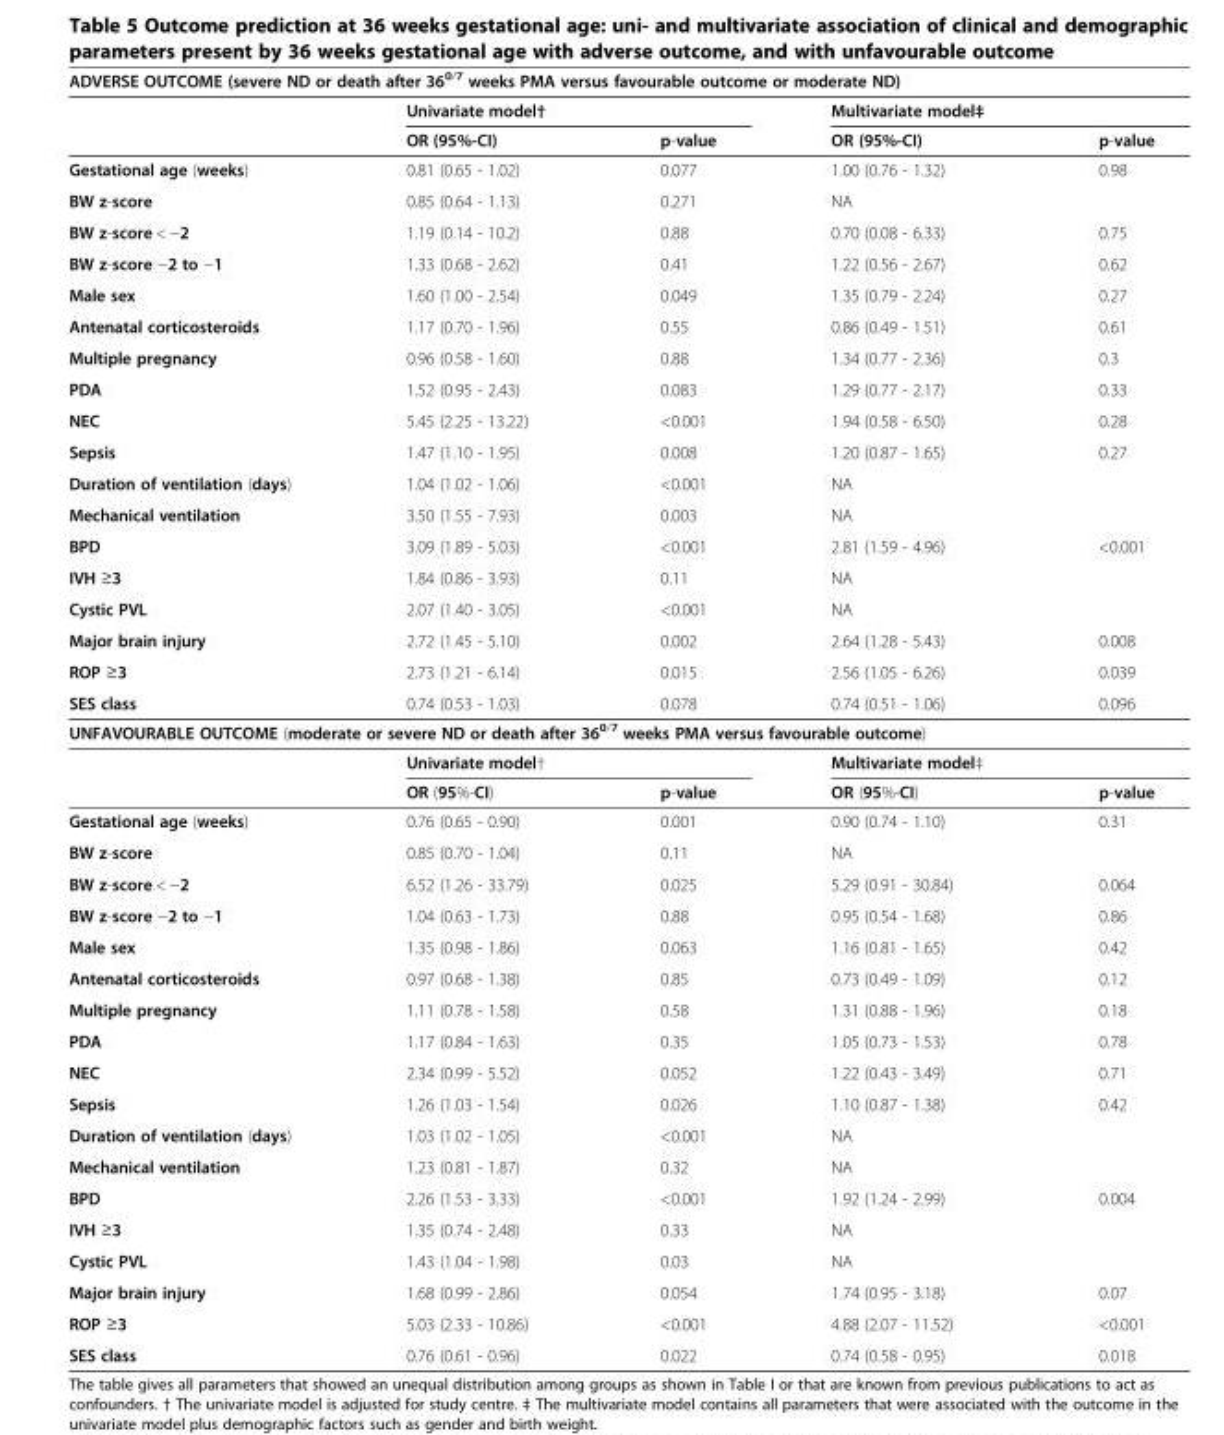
<table><thead><tr><td colspan="5">ADVERSE OUTCOME (severe ND or death after 36<sup>0/7</sup> weeks PMA versus favourable outcome or moderate ND)</td></tr><tr><td rowspan="2"></td><td rowspan="2">Univariate model† OR (95%-CI)</td><td rowspan="2">p-value</td><td rowspan="2">Multivariate model‡ OR (95%-CI)</td><td rowspan="2">p-value</td></tr><tr></tr></thead><tbody><tr><td>Gestational age (weeks)</td><td>0.81 (0.65 - 1.02)</td><td>0.077</td><td>1.00 (0.76 - 1.32)</td><td>0.98</td></tr><tr><td>BW z-score</td><td>0.85 (0.64 - 1.13)</td><td>0.271</td><td>NA</td><td></td></tr><tr><td>BW z-score &lt; −2</td><td>1.19 (0.14 - 10.2)</td><td>0.88</td><td>0.70 (0.08 - 6.33)</td><td>0.75</td></tr><tr><td>BW z-score −2 to −1</td><td>1.33 (0.68 - 2.62)</td><td>0.41</td><td>1.22 (0.56 - 2.67)</td><td>0.62</td></tr><tr><td>Male sex</td><td>1.60 (1.00 - 2.54)</td><td>0.049</td><td>1.35 (0.79 - 2.24)</td><td>0.27</td></tr><tr><td>Antenatal corticosteroids</td><td>1.17 (0.70 - 1.96)</td><td>0.55</td><td>0.86 (0.49 - 1.51)</td><td>0.61</td></tr><tr><td>Multiple pregnancy</td><td>0.96 (0.58 - 1.60)</td><td>0.88</td><td>1.34 (0.77 - 2.36)</td><td>0.3</td></tr><tr><td>PDA</td><td>1.52 (0.95 - 2.43)</td><td>0.083</td><td>1.29 (0.77 - 2.17)</td><td>0.33</td></tr><tr><td>NEC</td><td>5.45 (2.25 - 13.22)</td><td>&lt;0.001</td><td>1.94 (0.58 - 6.50)</td><td>0.28</td></tr><tr><td>Sepsis</td><td>1.47 (1.10 - 1.95)</td><td>0.008</td><td>1.20 (0.87 - 1.65)</td><td>0.27</td></tr><tr><td>Duration of ventilation (days)</td><td>1.04 (1.02 - 1.06)</td><td>&lt;0.001</td><td>NA</td><td></td></tr><tr><td>Mechanical ventilation</td><td>3.50 (1.55 - 7.93)</td><td>0.003</td><td>NA</td><td></td></tr><tr><td>BPD</td><td>3.09 (1.89 - 5.03)</td><td>&lt;0.001</td><td>2.81 (1.59 - 4.96)</td><td>&lt;0.001</td></tr><tr><td>IVH ≥3</td><td>1.84 (0.86 - 3.93)</td><td>0.11</td><td>NA</td><td></td></tr><tr><td>Cystic PVL</td><td>2.07 (1.40 - 3.05)</td><td>&lt;0.001</td><td>NA</td><td></td></tr><tr><td>Major brain injury</td><td>2.72 (1.45 - 5.10)</td><td>0.002</td><td>2.64 (1.28 - 5.43)</td><td>0.008</td></tr><tr><td>ROP ≥3</td><td>2.73 (1.21 - 6.14)</td><td>0.015</td><td>2.56 (1.05 - 6.26)</td><td>0.039</td></tr><tr><td>SES class</td><td>0.74 (0.53 - 1.03)</td><td>0.078</td><td>0.74 (0.51 - 1.06)</td><td>0.096</td></tr><tr><td colspan="5">UNFAVOURABLE OUTCOME (moderate or severe ND or death after 36<sup>0/7</sup> weeks PMA versus favourable outcome)</td></tr><tr><td></td><td>Univariate model†</td><td></td><td>Multivariate model‡</td><td></td></tr><tr><td></td><td>OR (95%-CI)</td><td>p-value</td><td>OR (95%-CI)</td><td>p-value</td></tr><tr><td>Gestational age (weeks)</td><td>0.76 (0.65 - 0.90)</td><td>0.001</td><td>0.90 (0.74 - 1.10)</td><td>0.31</td></tr><tr><td>BW z-score</td><td>0.85 (0.70 - 1.04)</td><td>0.11</td><td>NA</td><td></td></tr><tr><td>BW z-score &lt; −2</td><td>6.52 (1.26 - 33.79)</td><td>0.025</td><td>5.29 (0.91 - 30.84)</td><td>0.064</td></tr><tr><td>BW z-score −2 to −1</td><td>1.04 (0.63 - 1.73)</td><td>0.88</td><td>0.95 (0.54 - 1.68)</td><td>0.86</td></tr><tr><td>Male sex</td><td>1.35 (0.98 - 1.86)</td><td>0.063</td><td>1.16 (0.81 - 1.65)</td><td>0.42</td></tr><tr><td>Antenatal corticosteroids</td><td>0.97 (0.68 - 1.38)</td><td>0.85</td><td>0.73 (0.49 - 1.09)</td><td>0.12</td></tr><tr><td>Multiple pregnancy</td><td>1.11 (0.78 - 1.58)</td><td>0.58</td><td>1.31 (0.88 - 1.96)</td><td>0.18</td></tr><tr><td>PDA</td><td>1.17 (0.84 - 1.63)</td><td>0.35</td><td>1.05 (0.73 - 1.53)</td><td>0.78</td></tr><tr><td>NEC</td><td>2.34 (0.99 - 5.52)</td><td>0.052</td><td>1.22 (0.43 - 3.49)</td><td>0.71</td></tr><tr><td>Sepsis</td><td>1.26 (1.03 - 1.54)</td><td>0.026</td><td>1.10 (0.87 - 1.38)</td><td>0.42</td></tr><tr><td>Duration of ventilation (days)</td><td>1.03 (1.02 - 1.05)</td><td>&lt;0.001</td><td>NA</td><td></td></tr><tr><td>Mechanical ventilation</td><td>1.23 (0.81 - 1.87)</td><td>0.32</td><td>NA</td><td></td></tr><tr><td>BPD</td><td>2.26 (1.53 - 3.33)</td><td>&lt;0.001</td><td>1.92 (1.24 - 2.99)</td><td>0.004</td></tr><tr><td>IVH ≥3</td><td>1.35 (0.74 - 2.48)</td><td>0.33</td><td>NA</td><td></td></tr><tr><td>Cystic PVL</td><td>1.43 (1.04 - 1.98)</td><td>0.03</td><td>NA</td><td></td></tr><tr><td>Major brain injury</td><td>1.68 (0.99 - 2.86)</td><td>0.054</td><td>1.74 (0.95 - 3.18)</td><td>0.07</td></tr><tr><td>ROP ≥3</td><td>5.03 (2.33 - 10.86)</td><td>&lt;0.001</td><td>4.88 (2.07 - 11.52)</td><td>&lt;0.001</td></tr><tr><td>SES class</td><td>0.76 (0.61 - 0.96)</td><td>0.022</td><td>0.74 (0.58 - 0.95)</td><td>0.018</td></tr></tbody></table>